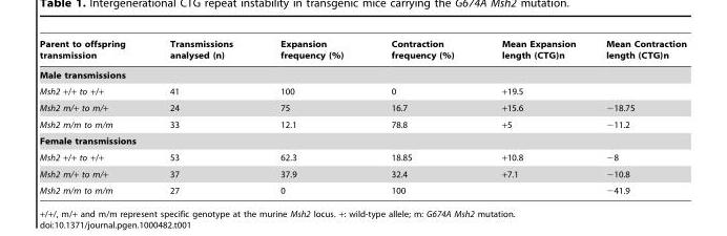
<table><thead><tr><td>Parent to offspring transmission</td><td>Transmissions analysed (n)</td><td>Expansion frequency (%)</td><td>Contraction frequency (%)</td><td>Mean Expansion length (CTG)n</td><td>Mean Contraction length (CTG)n</td></tr></thead><tbody><tr><td colspan="6">Male transmissions</td></tr><tr><td>Msh2 +/+ to +/+</td><td>41</td><td>100</td><td>0</td><td>+19.5</td><td></td></tr><tr><td>Msh2 m/+ to m/+</td><td>24</td><td>75</td><td>16.7</td><td>+15.6</td><td>−18.75</td></tr><tr><td>Msh2 m/m to m/m</td><td>33</td><td>12.1</td><td>78.8</td><td>+5</td><td>−11.2</td></tr><tr><td colspan="6">Female transmissions</td></tr><tr><td>Msh2 +/+ to +/+</td><td>53</td><td>62.3</td><td>18.85</td><td>+10.8</td><td>−8</td></tr><tr><td>Msh2 m/+ to m/+</td><td>37</td><td>37.9</td><td>32.4</td><td>+7.1</td><td>−10.8</td></tr><tr><td>Msh2 m/m to m/m</td><td>27</td><td>0</td><td>100</td><td></td><td>−41.9</td></tr></tbody></table>